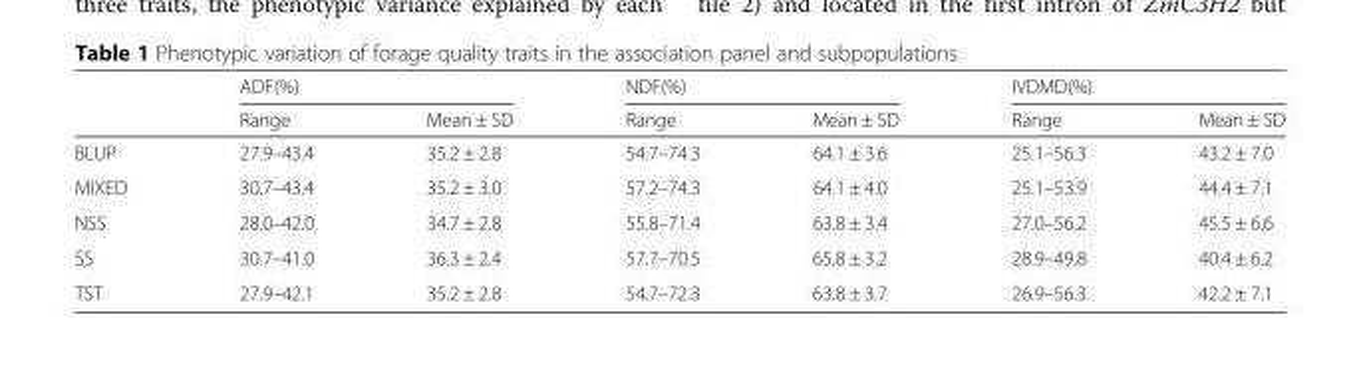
<table><thead><tr><td rowspan="2"></td><td colspan="2">ADF(%)</td><td colspan="2">NDF(%)</td><td colspan="2">IVDMD(%)</td></tr><tr><td>Range</td><td>Mean ± SD</td><td>Range</td><td>Mean ± SD</td><td>Range</td><td>Mean ± SD</td></tr></thead><tbody><tr><td>BLUP</td><td>27.9–43.4</td><td>35.2 ± 2.8</td><td>54.7–74.3</td><td>64.1 ± 3.6</td><td>25.1–56.3</td><td>43.2 ± 7.0</td></tr><tr><td>MIXED</td><td>30.7–43.4</td><td>35.2 ± 3.0</td><td>57.2–74.3</td><td>64.1 ± 4.0</td><td>25.1–53.9</td><td>44.4 ± 7.1</td></tr><tr><td>NSS</td><td>28.0–42.0</td><td>34.7 ± 2.8</td><td>55.8–71.4</td><td>63.8 ± 3.4</td><td>27.0–56.2</td><td>45.5 ± 6.6</td></tr><tr><td>SS</td><td>30.7–41.0</td><td>36.3 ± 2.4</td><td>57.7–70.5</td><td>65.8 ± 3.2</td><td>28.9–49.8</td><td>40.4 ± 6.2</td></tr><tr><td>TST</td><td>27.9–42.1</td><td>35.2 ± 2.8</td><td>54.7–72.3</td><td>63.8 ± 3.7</td><td>26.9–56.3</td><td>42.2 ± 7.1</td></tr></tbody></table>